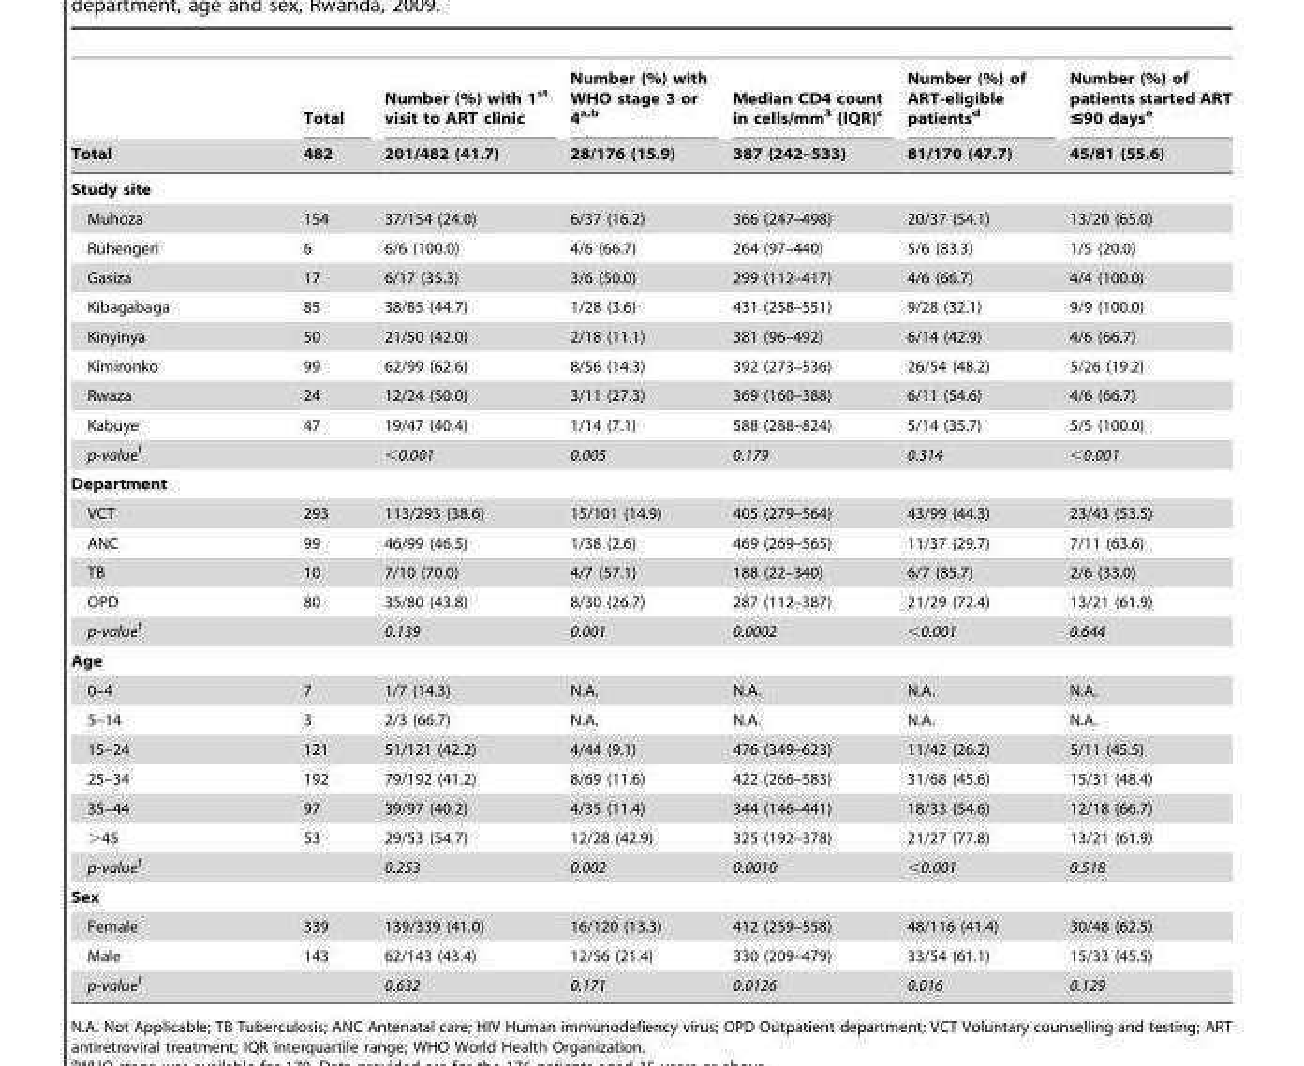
<table><thead><tr><td rowspan="2">Total</td><td rowspan="2">Total 482</td><td rowspan="2">Number (%) with 1<sup>st</sup> visit to ART clinic 201/482 (41.7)</td><td rowspan="2">Number (%) with WHO stage 3 or 4a,b 28/176 (15.9)</td><td rowspan="2">Median CD4 count in cells/mm<sup>3</sup> (IQR)<sup>c</sup> 387 (242–533)</td><td rowspan="2">Number (%) of ART-eligible patients<sup>d</sup> 81/170 (47.7)</td><td rowspan="2">Number (%) of patients started ART ≤90 days<sup>e</sup> 45/81 (55.6)</td></tr><tr></tr></thead><tbody><tr><td colspan="7">Study site</td></tr><tr><td>Muhoza</td><td>154</td><td>37/154 (24.0)</td><td>6/37 (16.2)</td><td>366 (247–498)</td><td>20/37 (54.1)</td><td>13/20 (65.0)</td></tr><tr><td>Ruhengeri</td><td>6</td><td>6/6 (100.0)</td><td>4/6 (66.7)</td><td>264 (97–440)</td><td>5/6 (83.3)</td><td>1/5 (20.0)</td></tr><tr><td>Gasiza</td><td>17</td><td>6/17 (35.3)</td><td>3/6 (50.0)</td><td>299 (112–417)</td><td>4/6 (66.7)</td><td>4/4 (100.0)</td></tr><tr><td>Kibagabaga</td><td>85</td><td>38/85 (44.7)</td><td>1/28 (3.6)</td><td>431 (258–551)</td><td>9/28 (32.1)</td><td>9/9 (100.0)</td></tr><tr><td>Kinyinya</td><td>50</td><td>21/50 (42.0)</td><td>2/18 (11.1)</td><td>381 (96–492)</td><td>6/14 (42.9)</td><td>4/6 (66.7)</td></tr><tr><td>Kimironko</td><td>99</td><td>62/99 (62.6)</td><td>8/56 (14.3)</td><td>392 (273–536)</td><td>26/54 (48.2)</td><td>5/26 (19.2)</td></tr><tr><td>Rwaza</td><td>24</td><td>12/24 (50.0)</td><td>3/11 (27.3)</td><td>369 (160–388)</td><td>6/11 (54.6)</td><td>4/6 (66.7)</td></tr><tr><td>Kabuye</td><td>47</td><td>19/47 (40.4)</td><td>1/14 (7.1)</td><td>588 (288–824)</td><td>5/14 (35.7)</td><td>5/5 (100.0)</td></tr><tr><td>p-valuef</td><td></td><td>&lt;0.001</td><td>0.005</td><td>0.179</td><td>0.314</td><td>&lt;0.001</td></tr><tr><td colspan="7">Department</td></tr><tr><td>VCT</td><td>293</td><td>113/293 (38.6)</td><td>15/101 (14.9)</td><td>405 (279–564)</td><td>43/99 (44.3)</td><td>23/43 (53.5)</td></tr><tr><td>ANC</td><td>99</td><td>46/99 (46.5)</td><td>1/38 (2.6)</td><td>469 (269–565)</td><td>11/37 (29.7)</td><td>7/11 (63.6)</td></tr><tr><td>TB</td><td>10</td><td>7/10 (70.0)</td><td>4/7 (57.1)</td><td>188 (22–340)</td><td>6/7 (85.7)</td><td>2/6 (33.0)</td></tr><tr><td>OPD</td><td>80</td><td>35/80 (43.8)</td><td>8/30 (26.7)</td><td>287 (112–387)</td><td>21/29 (72.4)</td><td>13/21 (61.9)</td></tr><tr><td>p-valuef</td><td></td><td>0.139</td><td>0.001</td><td>0.0002</td><td>&lt;0.001</td><td>0.644</td></tr><tr><td colspan="7">Age</td></tr><tr><td>0–4</td><td>7</td><td>1/7 (14.3)</td><td>N.A.</td><td>N.A.</td><td>N.A.</td><td>N.A.</td></tr><tr><td>5–14</td><td>3</td><td>2/3 (66.7)</td><td>N.A.</td><td>N.A.</td><td>N.A.</td><td>N.A.</td></tr><tr><td>15–24</td><td>121</td><td>51/121 (42.2)</td><td>4/44 (9.1)</td><td>476 (349–623)</td><td>11/42 (26.2)</td><td>5/11 (45.5)</td></tr><tr><td>25–34</td><td>192</td><td>79/192 (41.2)</td><td>8/69 (11.6)</td><td>422 (266–583)</td><td>31/68 (45.6)</td><td>15/31 (48.4)</td></tr><tr><td>35–44</td><td>97</td><td>39/97 (40.2)</td><td>4/35 (11.4)</td><td>344 (146–441)</td><td>18/33 (54.6)</td><td>12/18 (66.7)</td></tr><tr><td>&gt;45</td><td>53</td><td>29/53 (54.7)</td><td>12/28 (42.9)</td><td>325 (192–378)</td><td>21/27 (77.8)</td><td>13/21 (61.9)</td></tr><tr><td>p-valuef</td><td></td><td>0.253</td><td>0.002</td><td>0.0010</td><td>&lt;0.001</td><td>0.518</td></tr><tr><td colspan="7">Sex</td></tr><tr><td>Female</td><td>339</td><td>139/339 (41.0)</td><td>16/120 (13.3)</td><td>412 (259–558)</td><td>48/116 (41.4)</td><td>30/48 (62.5)</td></tr><tr><td>Male</td><td>143</td><td>62/143 (43.4)</td><td>12/56 (21.4)</td><td>330 (209–479)</td><td>33/54 (61.1)</td><td>15/33 (45.5)</td></tr><tr><td>p-valuef</td><td></td><td>0.632</td><td>0.171</td><td>0.0126</td><td>0.016</td><td>0.129</td></tr></tbody></table>